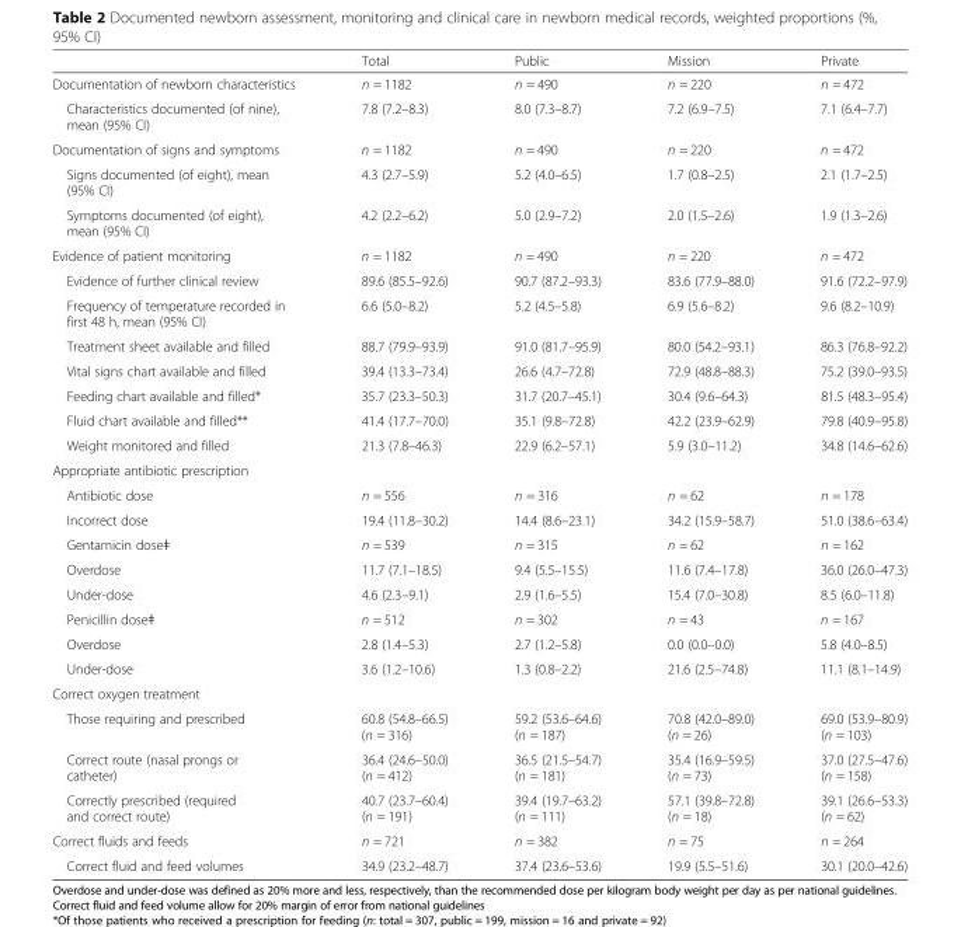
<table><thead><tr><td></td><td>Total</td><td>Public</td><td>Mission</td><td>Private</td></tr></thead><tbody><tr><td>Documentation of newborn characteristics</td><td>n = 1182</td><td>n = 490</td><td>n = 220</td><td>n = 472</td></tr><tr><td>Characteristics documented (of nine), mean (95% CI)</td><td>7.8 (7.2–8.3)</td><td>8.0 (7.3–8.7)</td><td>7.2 (6.9–7.5)</td><td>7.1 (6.4–7.7)</td></tr><tr><td>Documentation of signs and symptoms</td><td>n = 1182</td><td>n = 490</td><td>n = 220</td><td>n = 472</td></tr><tr><td>Signs documented (of eight), mean (95% CI)</td><td>4.3 (2.7–5.9)</td><td>5.2 (4.0–6.5)</td><td>1.7 (0.8–2.5)</td><td>2.1 (1.7–2.5)</td></tr><tr><td>Symptoms documented (of eight), mean (95% CI)</td><td>4.2 (2.2–6.2)</td><td>5.0 (2.9–7.2)</td><td>2.0 (1.5–2.6)</td><td>1.9 (1.3–2.6)</td></tr><tr><td>Evidence of patient monitoring</td><td>n = 1182</td><td>n = 490</td><td>n = 220</td><td>n = 472</td></tr><tr><td>Evidence of further clinical review</td><td>89.6 (85.5–92.6)</td><td>90.7 (87.2–93.3)</td><td>83.6 (77.9–88.0)</td><td>91.6 (72.2–97.9)</td></tr><tr><td>Frequency of temperature recorded in first 48 h, mean (95% CI)</td><td>6.6 (5.0–8.2)</td><td>5.2 (4.5–5.8)</td><td>6.9 (5.6–8.2)</td><td>9.6 (8.2–10.9)</td></tr><tr><td>Treatment sheet available and filled</td><td>88.7 (79.9–93.9)</td><td>91.0 (81.7–95.9)</td><td>80.0 (54.2–93.1)</td><td>86.3 (76.8–92.2)</td></tr><tr><td>Vital signs chart available and filled</td><td>39.4 (13.3–73.4)</td><td>26.6 (4.7–72.8)</td><td>72.9 (48.8–88.3)</td><td>75.2 (39.0–93.5)</td></tr><tr><td>Feeding chart available and filled*</td><td>35.7 (23.3–50.3)</td><td>31.7 (20.7–45.1)</td><td>30.4 (9.6–64.3)</td><td>81.5 (48.3–95.4)</td></tr><tr><td>Fluid chart available and filled**</td><td>41.4 (17.7–70.0)</td><td>35.1 (9.8–72.8)</td><td>42.2 (23.9–62.9)</td><td>79.8 (40.9–95.8)</td></tr><tr><td>Weight monitored and filled</td><td>21.3 (7.8–46.3)</td><td>22.9 (6.2–57.1)</td><td>5.9 (3.0–11.2)</td><td>34.8 (14.6–62.6)</td></tr><tr><td colspan="5">Appropriate antibiotic prescription</td></tr><tr><td>Antibiotic dose</td><td>n = 556</td><td>n = 316</td><td>n = 62</td><td>n = 178</td></tr><tr><td>Incorrect dose</td><td>19.4 (11.8–30.2)</td><td>14.4 (8.6–23.1)</td><td>34.2 (15.9–58.7)</td><td>51.0 (38.6–63.4)</td></tr><tr><td>Gentamicin doseǂ</td><td>n = 539</td><td>n = 315</td><td>n = 62</td><td>n = 162</td></tr><tr><td>Overdose</td><td>11.7 (7.1–18.5)</td><td>9.4 (5.5–15.5)</td><td>11.6 (7.4–17.8)</td><td>36.0 (26.0–47.3)</td></tr><tr><td>Under-dose</td><td>4.6 (2.3–9.1)</td><td>2.9 (1.6–5.5)</td><td>15.4 (7.0–30.8)</td><td>8.5 (6.0–11.8)</td></tr><tr><td>Penicillin doseǂ</td><td>n = 512</td><td>n = 302</td><td>n = 43</td><td>n = 167</td></tr><tr><td>Overdose</td><td>2.8 (1.4–5.3)</td><td>2.7 (1.2–5.8)</td><td>0.0 (0.0–0.0)</td><td>5.8 (4.0–8.5)</td></tr><tr><td>Under-dose</td><td>3.6 (1.2–10.6)</td><td>1.3 (0.8–2.2)</td><td>21.6 (2.5–74.8)</td><td>11.1 (8.1–14.9)</td></tr><tr><td colspan="5">Correct oxygen treatment</td></tr><tr><td>Those requiring and prescribed</td><td>60.8 (54.8–66.5) (n = 316)</td><td>59.2 (53.6–64.6) (n = 187)</td><td>70.8 (42.0–89.0) (n = 26)</td><td>69.0 (53.9–80.9) (n = 103)</td></tr><tr><td>Correct route (nasal prongs or catheter)</td><td>36.4 (24.6–50.0) (n = 412)</td><td>36.5 (21.5–54.7) (n = 181)</td><td>35.4 (16.9–59.5) (n = 73)</td><td>37.0 (27.5–47.6) (n = 158)</td></tr><tr><td>Correctly prescribed (required and correct route)</td><td>40.7 (23.7–60.4) (n = 191)</td><td>39.4 (19.7–63.2) (n = 111)</td><td>57.1 (39.8–72.8) (n = 18)</td><td>39.1 (26.6–53.3) (n = 62)</td></tr><tr><td>Correct fluids and feeds</td><td>n = 721</td><td>n = 382</td><td>n = 75</td><td>n = 264</td></tr><tr><td>Correct fluid and feed volumes</td><td>34.9 (23.2–48.7)</td><td>37.4 (23.6–53.6)</td><td>19.9 (5.5–51.6)</td><td>30.1 (20.0–42.6)</td></tr></tbody></table>